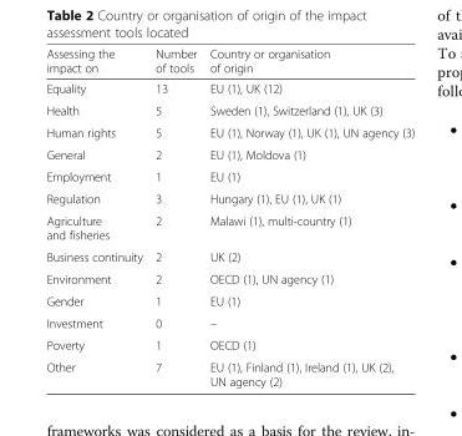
<table><thead><tr><td>Assessing the impact on</td><td>Number of tools</td><td>Country or organisation of origin</td></tr></thead><tbody><tr><td>Equality</td><td>13</td><td>EU (1), UK (12)</td></tr><tr><td>Health</td><td>5</td><td>Sweden (1), Switzerland (1), UK (3)</td></tr><tr><td>Human rights</td><td>5</td><td>EU (1), Norway (1), UK (1), UN agency (3)</td></tr><tr><td>General</td><td>2</td><td>EU (1), Moldova (1)</td></tr><tr><td>Employment</td><td>1</td><td>EU (1)</td></tr><tr><td>Regulation</td><td>3</td><td>Hungary (1), EU (1), UK (1)</td></tr><tr><td>Agriculture and fisheries</td><td>2</td><td>Malawi (1), multi-country (1)</td></tr><tr><td>Business continuity</td><td>2</td><td>UK (2)</td></tr><tr><td>Environment</td><td>2</td><td>OECD (1), UN agency (1)</td></tr><tr><td>Gender</td><td>1</td><td>EU (1)</td></tr><tr><td>Investment</td><td>0</td><td>–</td></tr><tr><td>Poverty</td><td>1</td><td>OECD (1)</td></tr><tr><td>Other</td><td>7</td><td>EU (1), Finland (1), Ireland (1), UK (2), UN agency (2)</td></tr></tbody></table>